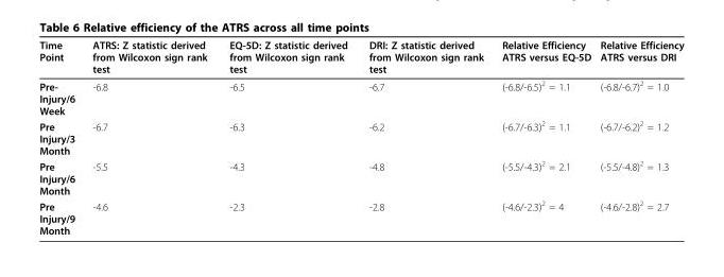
<table><thead><tr><td>Time Point</td><td>ATRS: Z statistic derived from Wilcoxon sign rank test</td><td>EQ-5D: Z statistic derived from Wilcoxon sign rank test</td><td>DRI: Z statistic derived from Wilcoxon sign rank test</td><td>Relative Efficiency ATRS versus EQ-5D</td><td>Relative Efficiency ATRS versus DRI</td></tr></thead><tbody><tr><td>Pre- Injury/6 Week</td><td>-6.8</td><td>-6.5</td><td>-6.7</td><td>(-6.8/-6.5)<sup>2</sup> = 1.1</td><td>(-6.8/-6.7)<sup>2</sup> = 1.0</td></tr><tr><td>Pre Injury/3 Month</td><td>-6.7</td><td>-6.3</td><td>-6.2</td><td>(-6.7/-6.3)<sup>2</sup> = 1.1</td><td>(-6.7/-6.2)<sup>2</sup> = 1.2</td></tr><tr><td>Pre Injury/6 Month</td><td>-5.5</td><td>-4.3</td><td>-4.8</td><td>(-5.5/-4.3)<sup>2</sup> = 2.1</td><td>(-5.5/-4.8)<sup>2</sup> = 1.3</td></tr><tr><td>Pre Injury/9 Month</td><td>-4.6</td><td>-2.3</td><td>-2.8</td><td>(-4.6/-2.3)<sup>2</sup> = 4</td><td>(-4.6/-2.8)<sup>2</sup> = 2.7</td></tr></tbody></table>